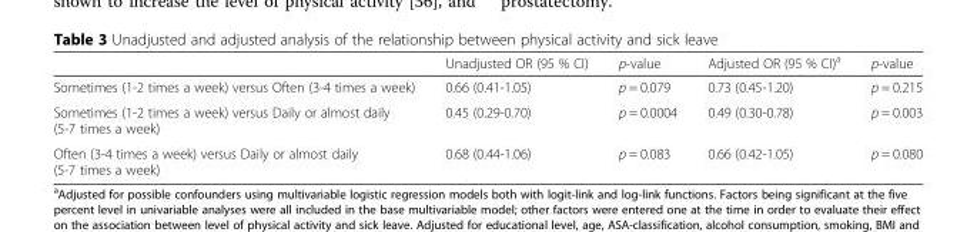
<table><thead><tr><td></td><td>Unadjusted OR (95 % CI)</td><td>p-value</td><td>Adjusted OR (95 % CI)<sup>a</sup></td><td>p-value</td></tr></thead><tbody><tr><td>Sometimes (1-2 times a week) versus Often (3-4 times a week)</td><td>0.66 (0.41-1.05)</td><td>p = 0.079</td><td>0.73 (0.45-1.20)</td><td>p = 0.215</td></tr><tr><td>Sometimes (1-2 times a week) versus Daily or almost daily (5-7 times a week)</td><td>0.45 (0.29-0.70)</td><td>p = 0.0004</td><td>0.49 (0.30-0.78)</td><td>p = 0.003</td></tr><tr><td>Often (3-4 times a week) versus Daily or almost daily (5-7 times a week)</td><td>0.68 (0.44-1.06)</td><td>p = 0.083</td><td>0.66 (0.42-1.05)</td><td>p = 0.080</td></tr></tbody></table>